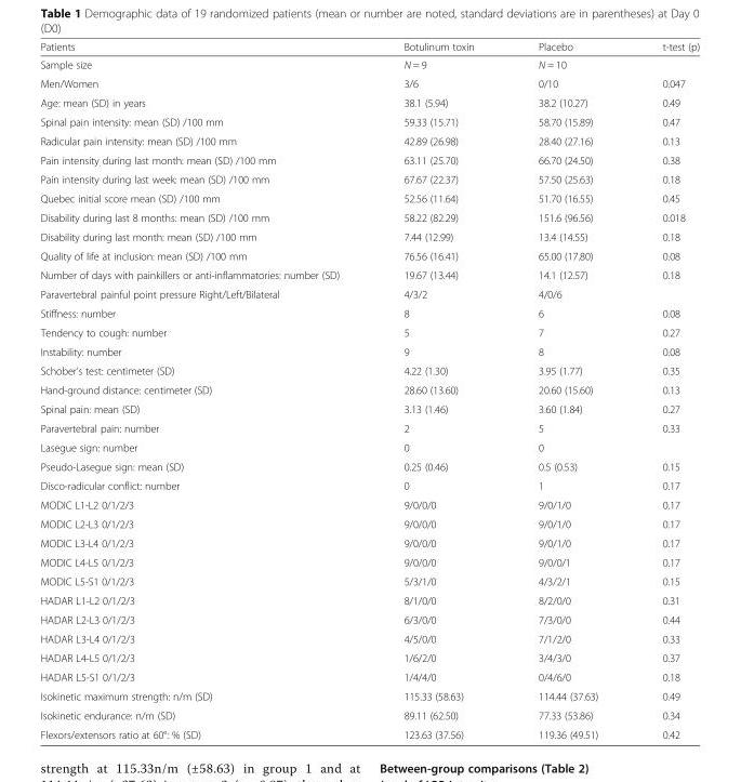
<table><thead><tr><td>Patients</td><td>Botulinum toxin</td><td>Placebo</td><td>t-test (p)</td></tr></thead><tbody><tr><td>Sample size</td><td>N = 9</td><td>N = 10</td><td></td></tr><tr><td>Men/Women</td><td>3/6</td><td>0/10</td><td>0.047</td></tr><tr><td>Age: mean (SD) in years</td><td>38.1 (5.94)</td><td>38.2 (10.27)</td><td>0.49</td></tr><tr><td>Spinal pain intensity: mean (SD) /100 mm</td><td>59.33 (15.71)</td><td>58.70 (15.89)</td><td>0.47</td></tr><tr><td>Radicular pain intensity: mean (SD) /100 mm</td><td>42.89 (26.98)</td><td>28.40 (27.16)</td><td>0.13</td></tr><tr><td>Pain intensity during last month: mean (SD) /100 mm</td><td>63.11 (25.70)</td><td>66.70 (24.50)</td><td>0.38</td></tr><tr><td>Pain intensity during last week: mean (SD) /100 mm</td><td>67.67 (22.37)</td><td>57.50 (25.63)</td><td>0.18</td></tr><tr><td>Quebec initial score mean (SD) /100 mm</td><td>52.56 (11.64)</td><td>51.70 (16.55)</td><td>0.45</td></tr><tr><td>Disability during last 8 months: mean (SD) /100 mm</td><td>58.22 (82.29)</td><td>151.6 (96.56)</td><td>0.018</td></tr><tr><td>Disability during last month: mean (SD) /100 mm</td><td>7.44 (12.99)</td><td>13.4 (14.55)</td><td>0.18</td></tr><tr><td>Quality of life at inclusion: mean (SD) /100 mm</td><td>76.56 (16.41)</td><td>65.00 (17.80)</td><td>0.08</td></tr><tr><td>Number of days with painkillers or anti-inflammatories: number (SD)</td><td>19.67 (13.44)</td><td>14.1 (12.57)</td><td>0.18</td></tr><tr><td>Paravertebral painful point pressure Right/Left/Bilateral</td><td>4/3/2</td><td>4/0/6</td><td></td></tr><tr><td>Stiffness: number</td><td>8</td><td>6</td><td>0.08</td></tr><tr><td>Tendency to cough: number</td><td>5</td><td>7</td><td>0.27</td></tr><tr><td>Instability: number</td><td>9</td><td>8</td><td>0.08</td></tr><tr><td>Schober’s test: centimeter (SD)</td><td>4.22 (1.30)</td><td>3.95 (1.77)</td><td>0.35</td></tr><tr><td>Hand-ground distance: centimeter (SD)</td><td>28.60 (13.60)</td><td>20.60 (15.60)</td><td>0.13</td></tr><tr><td>Spinal pain: mean (SD)</td><td>3.13 (1.46)</td><td>3.60 (1.84)</td><td>0.27</td></tr><tr><td>Paravertebral pain: number</td><td>2</td><td>5</td><td>0.33</td></tr><tr><td>Lasegue sign: number</td><td>0</td><td>0</td><td></td></tr><tr><td>Pseudo-Lasegue sign: mean (SD)</td><td>0.25 (0.46)</td><td>0.5 (0.53)</td><td>0.15</td></tr><tr><td>Disco-radicular conflict: number</td><td>0</td><td>1</td><td>0.17</td></tr><tr><td>MODIC L1-L2 0/1/2/3</td><td>9/0/0/0</td><td>9/0/1/0</td><td>0.17</td></tr><tr><td>MODIC L2-L3 0/1/2/3</td><td>9/0/0/0</td><td>9/0/1/0</td><td>0.17</td></tr><tr><td>MODIC L3-L4 0/1/2/3</td><td>9/0/0/0</td><td>9/0/1/0</td><td>0.17</td></tr><tr><td>MODIC L4-L5 0/1/2/3</td><td>9/0/0/0</td><td>9/0/0/1</td><td>0.17</td></tr><tr><td>MODIC L5-S1 0/1/2/3</td><td>5/3/1/0</td><td>4/3/2/1</td><td>0.15</td></tr><tr><td>HADAR L1-L2 0/1/2/3</td><td>8/1/0/0</td><td>8/2/0/0</td><td>0.31</td></tr><tr><td>HADAR L2-L3 0/1/2/3</td><td>6/3/0/0</td><td>7/3/0/0</td><td>0.44</td></tr><tr><td>HADAR L3-L4 0/1/2/3</td><td>4/5/0/0</td><td>7/1/2/0</td><td>0.33</td></tr><tr><td>HADAR L4-L5 0/1/2/3</td><td>1/6/2/0</td><td>3/4/3/0</td><td>0.37</td></tr><tr><td>HADAR L5-S1 0/1/2/3</td><td>1/4/4/0</td><td>0/4/6/0</td><td>0.18</td></tr><tr><td>Isokinetic maximum strength: n/m (SD)</td><td>115.33 (58.63)</td><td>114.44 (37.63)</td><td>0.49</td></tr><tr><td>Isokinetic endurance: n/m (SD)</td><td>89.11 (62.50)</td><td>77.33 (53.86)</td><td>0.34</td></tr><tr><td>Flexors/extensors ratio at 60°: % (SD)</td><td>123.63 (37.56)</td><td>119.36 (49.51)</td><td>0.42</td></tr></tbody></table>